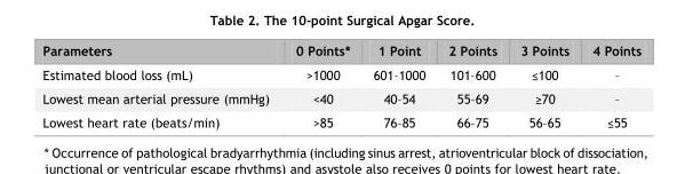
<table><thead><tr><td>Parameters</td><td>0 Points*</td><td>1 Point</td><td>2 Points</td><td>3 Points</td><td>4 Points</td></tr></thead><tbody><tr><td>Estimated blood loss (mL)</td><td>&gt;1000</td><td>601–1000</td><td>101–600</td><td>≤100</td><td>–</td></tr><tr><td>Lowest mean arterial pressure (mmHg)</td><td>&lt;40</td><td>40–54</td><td>55–69</td><td>≥70</td><td>–</td></tr><tr><td>Lowest heart rate (beats/min)</td><td>&gt;85</td><td>76–85</td><td>66–75</td><td>56–65</td><td>≤55</td></tr></tbody></table>